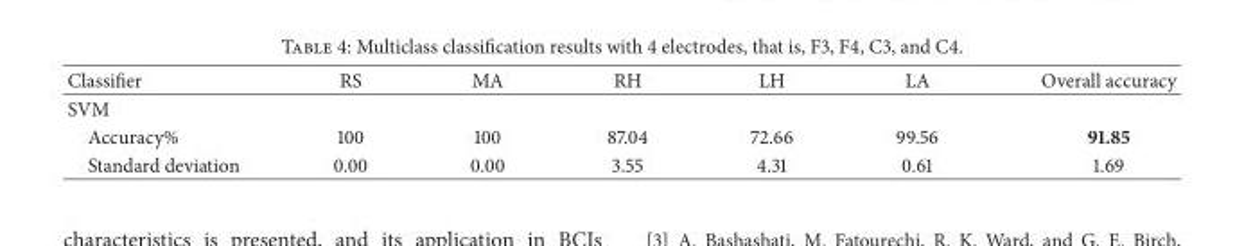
<table><thead><tr><td>Classifier</td><td>RS</td><td>MA</td><td>RH</td><td>LH</td><td>LA</td><td>Overall accuracy</td></tr></thead><tbody><tr><td colspan="7">SVM</td></tr><tr><td>Accuracy%</td><td>100</td><td>100</td><td>87.04</td><td>72.66</td><td>99.56</td><td>91.85</td></tr><tr><td>Standard deviation</td><td>0.00</td><td>0.00</td><td>3.55</td><td>4.31</td><td>0.61</td><td>1.69</td></tr></tbody></table>